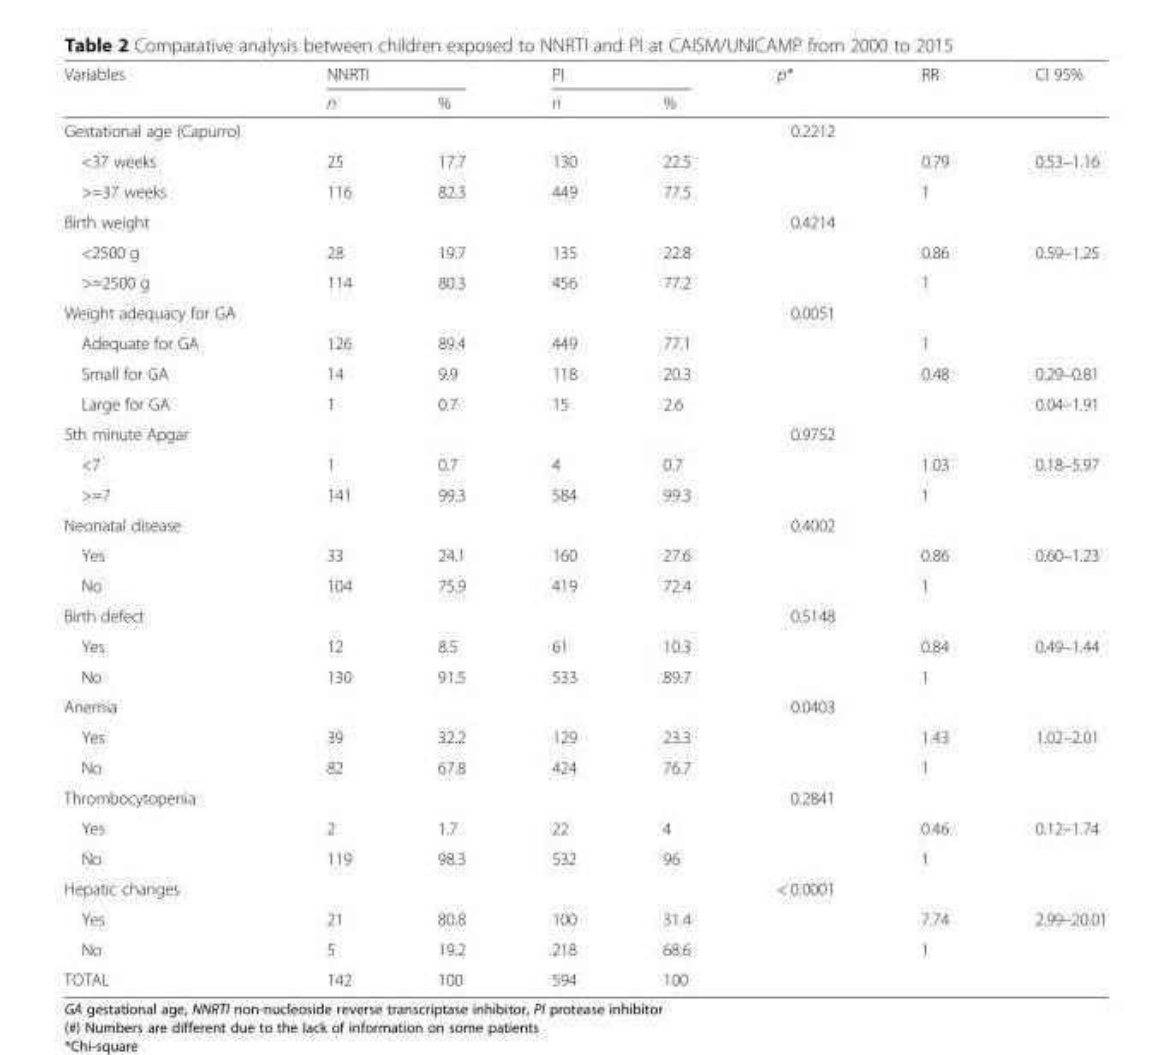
<table><thead><tr><td rowspan="2">Variables</td><td colspan="2">NNRTI</td><td colspan="2">PI</td><td rowspan="2">p*</td><td rowspan="2">RR</td><td rowspan="2">CI 95%</td></tr><tr><td>n</td><td>%</td><td>n</td><td>%</td></tr></thead><tbody><tr><td>Gestational age (Capurro)</td><td></td><td></td><td></td><td></td><td>0.2212</td><td></td><td></td></tr><tr><td>&lt;37 weeks</td><td>25</td><td>17.7</td><td>130</td><td>22.5</td><td></td><td>0.79</td><td>0.53–1.16</td></tr><tr><td>&gt;=37 weeks</td><td>116</td><td>82.3</td><td>449</td><td>77.5</td><td></td><td>1</td><td></td></tr><tr><td>Birth weight</td><td></td><td></td><td></td><td></td><td>0.4214</td><td></td><td></td></tr><tr><td>&lt;2500 g</td><td>28</td><td>19.7</td><td>135</td><td>22.8</td><td></td><td>0.86</td><td>0.59–1.25</td></tr><tr><td>&gt;=2500 g</td><td>114</td><td>80.3</td><td>456</td><td>77.2</td><td></td><td>1</td><td></td></tr><tr><td>Weight adequacy for GA</td><td></td><td></td><td></td><td></td><td>0.0051</td><td></td><td></td></tr><tr><td>Adequate for GA</td><td>126</td><td>89.4</td><td>449</td><td>77.1</td><td></td><td>1</td><td></td></tr><tr><td>Small for GA</td><td>14</td><td>9.9</td><td>118</td><td>20.3</td><td></td><td>0.48</td><td>0.29–0.81</td></tr><tr><td>Large for GA</td><td>1</td><td>0.7</td><td>15</td><td>2.6</td><td></td><td></td><td>0.04–1.91</td></tr><tr><td>5th minute Apgar</td><td></td><td></td><td></td><td></td><td>0.9752</td><td></td><td></td></tr><tr><td>&lt;7</td><td>1</td><td>0.7</td><td>4</td><td>0.7</td><td></td><td>1.03</td><td>0.18–5.97</td></tr><tr><td>&gt;=7</td><td>141</td><td>99.3</td><td>584</td><td>99.3</td><td></td><td>1</td><td></td></tr><tr><td>Neonatal disease</td><td></td><td></td><td></td><td></td><td>0.4002</td><td></td><td></td></tr><tr><td>Yes</td><td>33</td><td>24.1</td><td>160</td><td>27.6</td><td></td><td>0.86</td><td>0.60–1.23</td></tr><tr><td>No</td><td>104</td><td>75.9</td><td>419</td><td>72.4</td><td></td><td>1</td><td></td></tr><tr><td>Birth defect</td><td></td><td></td><td></td><td></td><td>0.5148</td><td></td><td></td></tr><tr><td>Yes</td><td>12</td><td>8.5</td><td>61</td><td>10.3</td><td></td><td>0.84</td><td>0.49–1.44</td></tr><tr><td>No</td><td>130</td><td>91.5</td><td>533</td><td>89.7</td><td></td><td>1</td><td></td></tr><tr><td>Anemia</td><td></td><td></td><td></td><td></td><td>0.0403</td><td></td><td></td></tr><tr><td>Yes</td><td>39</td><td>32.2</td><td>129</td><td>23.3</td><td></td><td>1.43</td><td>1.02–2.01</td></tr><tr><td>No</td><td>82</td><td>67.8</td><td>424</td><td>76.7</td><td></td><td>1</td><td></td></tr><tr><td>Thrombocytopenia</td><td></td><td></td><td></td><td></td><td>0.2841</td><td></td><td></td></tr><tr><td>Yes</td><td>2</td><td>1.7</td><td>22</td><td>4</td><td></td><td>0.46</td><td>0.12–1.74</td></tr><tr><td>No</td><td>119</td><td>98.3</td><td>532</td><td>96</td><td></td><td>1</td><td></td></tr><tr><td>Hepatic changes</td><td></td><td></td><td></td><td></td><td>&lt; 0.0001</td><td></td><td></td></tr><tr><td>Yes</td><td>21</td><td>80.8</td><td>100</td><td>31.4</td><td></td><td>7.74</td><td>2.99–20.01</td></tr><tr><td>No</td><td>5</td><td>19.2</td><td>218</td><td>68.6</td><td></td><td>1</td><td></td></tr><tr><td>TOTAL</td><td>142</td><td>100</td><td>594</td><td>100</td><td></td><td></td><td></td></tr></tbody></table>